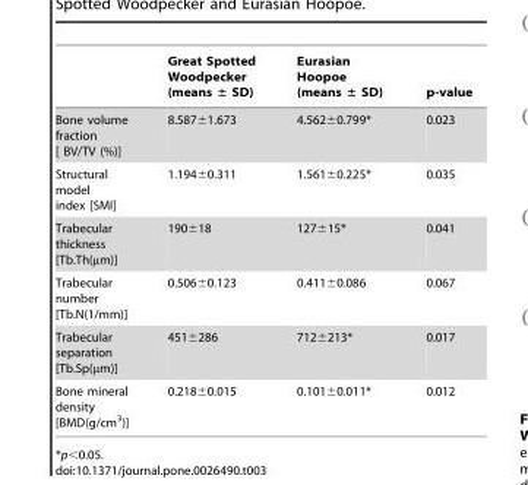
<table><thead><tr><td></td><td>Great Spotted Woodpecker (means ± SD)</td><td>Eurasian Hoopoe (means ± SD)</td><td>p-value</td></tr></thead><tbody><tr><td>Bone volume fraction [ BV/TV (%)]</td><td>8.587±1.673</td><td>4.562±0.799*</td><td>0.023</td></tr><tr><td>Structural model index [SMI]</td><td>1.194±0.311</td><td>1.561±0.225*</td><td>0.035</td></tr><tr><td>Trabecular thickness [Tb.Th(µm)]</td><td>190±18</td><td>127±15*</td><td>0.041</td></tr><tr><td>Trabecular number [Tb.N(1/mm)]</td><td>0.506±0.123</td><td>0.411±0.086</td><td>0.067</td></tr><tr><td>Trabecular separation [Tb.Sp(µm)]</td><td>451±286</td><td>712±213*</td><td>0.017</td></tr><tr><td>Bone mineral density [BMD(g/cm<sup>3</sup>)]</td><td>0.218±0.015</td><td>0.101±0.011*</td><td>0.012</td></tr></tbody></table>